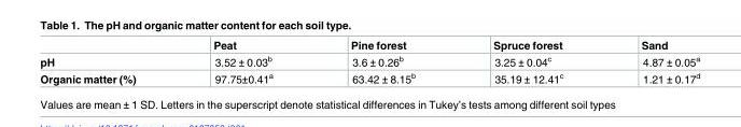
<table><thead><tr><td></td><td>Peat</td><td>Pine forest</td><td>Spruce forest</td><td>Sand</td></tr></thead><tbody><tr><td>pH</td><td>3.52 ± 0.03<sup>b</sup></td><td>3.6 ± 0.26<sup>b</sup></td><td>3.25 ± 0.04<sup>c</sup></td><td>4.87 ± 0.05<sup>a</sup></td></tr><tr><td>Organic matter (%)</td><td>97.75±0.41<sup>a</sup></td><td>63.42 ± 8.15<sup>b</sup></td><td>35.19 ± 12.41<sup>c</sup></td><td>1.21 ± 0.17<sup>d</sup></td></tr></tbody></table>